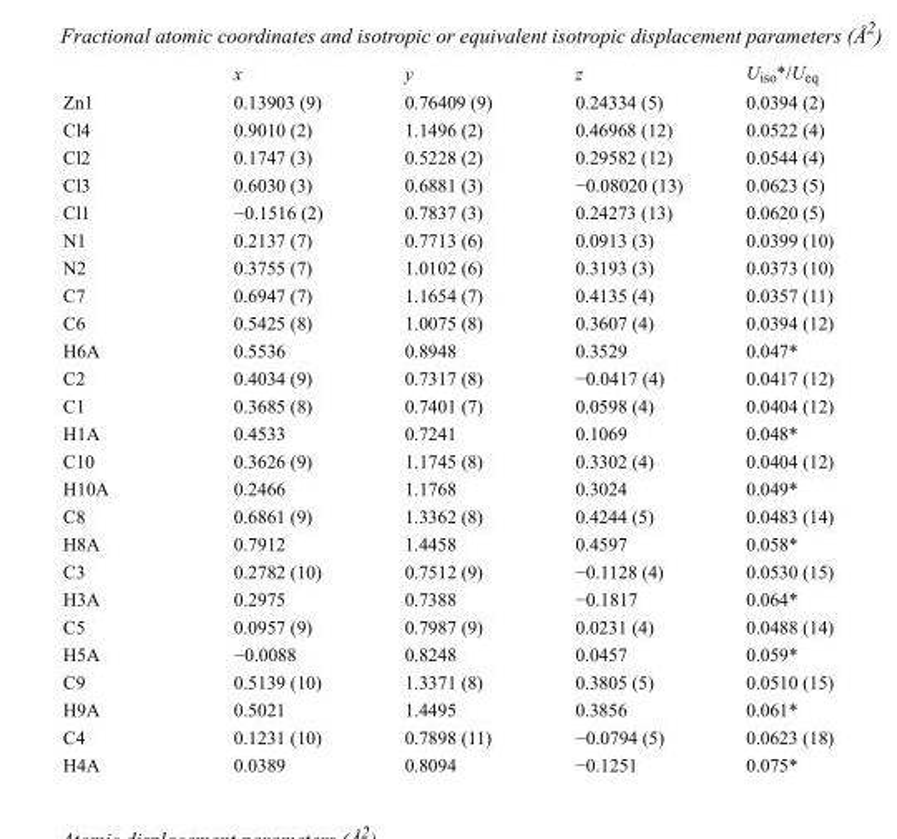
<table><thead><tr><td></td><td>x</td><td>y</td><td>z</td><td>U<sub>iso</sub>*/U<sub>eq</sub></td></tr></thead><tbody><tr><td>Zn1</td><td>0.13903 (9)</td><td>0.76409 (9)</td><td>0.24334 (5)</td><td>0.0394 (2)</td></tr><tr><td>Cl4</td><td>0.9010 (2)</td><td>1.1496 (2)</td><td>0.46968 (12)</td><td>0.0522 (4)</td></tr><tr><td>Cl2</td><td>0.1747 (3)</td><td>0.5228 (2)</td><td>0.29582 (12)</td><td>0.0544 (4)</td></tr><tr><td>Cl3</td><td>0.6030 (3)</td><td>0.6881 (3)</td><td>−0.08020 (13)</td><td>0.0623 (5)</td></tr><tr><td>Cl1</td><td>−0.1516 (2)</td><td>0.7837 (3)</td><td>0.24273 (13)</td><td>0.0620 (5)</td></tr><tr><td>N1</td><td>0.2137 (7)</td><td>0.7713 (6)</td><td>0.0913 (3)</td><td>0.0399 (10)</td></tr><tr><td>N2</td><td>0.3755 (7)</td><td>1.0102 (6)</td><td>0.3193 (3)</td><td>0.0373 (10)</td></tr><tr><td>C7</td><td>0.6947 (7)</td><td>1.1654 (7)</td><td>0.4135 (4)</td><td>0.0357 (11)</td></tr><tr><td>C6</td><td>0.5425 (8)</td><td>1.0075 (8)</td><td>0.3607 (4)</td><td>0.0394 (12)</td></tr><tr><td>H6A</td><td>0.5536</td><td>0.8948</td><td>0.3529</td><td>0.047*</td></tr><tr><td>C2</td><td>0.4034 (9)</td><td>0.7317 (8)</td><td>−0.0417 (4)</td><td>0.0417 (12)</td></tr><tr><td>C1</td><td>0.3685 (8)</td><td>0.7401 (7)</td><td>0.0598 (4)</td><td>0.0404 (12)</td></tr><tr><td>H1A</td><td>0.4533</td><td>0.7241</td><td>0.1069</td><td>0.048*</td></tr><tr><td>C10</td><td>0.3626 (9)</td><td>1.1745 (8)</td><td>0.3302 (4)</td><td>0.0404 (12)</td></tr><tr><td>H10A</td><td>0.2466</td><td>1.1768</td><td>0.3024</td><td>0.049*</td></tr><tr><td>C8</td><td>0.6861 (9)</td><td>1.3362 (8)</td><td>0.4244 (5)</td><td>0.0483 (14)</td></tr><tr><td>H8A</td><td>0.7912</td><td>1.4458</td><td>0.4597</td><td>0.058*</td></tr><tr><td>C3</td><td>0.2782 (10)</td><td>0.7512 (9)</td><td>−0.1128 (4)</td><td>0.0530 (15)</td></tr><tr><td>H3A</td><td>0.2975</td><td>0.7388</td><td>−0.1817</td><td>0.064*</td></tr><tr><td>C5</td><td>0.0957 (9)</td><td>0.7987 (9)</td><td>0.0231 (4)</td><td>0.0488 (14)</td></tr><tr><td>H5A</td><td>−0.0088</td><td>0.8248</td><td>0.0457</td><td>0.059*</td></tr><tr><td>C9</td><td>0.5139 (10)</td><td>1.3371 (8)</td><td>0.3805 (5)</td><td>0.0510 (15)</td></tr><tr><td>H9A</td><td>0.5021</td><td>1.4495</td><td>0.3856</td><td>0.061*</td></tr><tr><td>C4</td><td>0.1231 (10)</td><td>0.7898 (11)</td><td>−0.0794 (5)</td><td>0.0623 (18)</td></tr><tr><td>H4A</td><td>0.0389</td><td>0.8094</td><td>−0.1251</td><td>0.075*</td></tr></tbody></table>